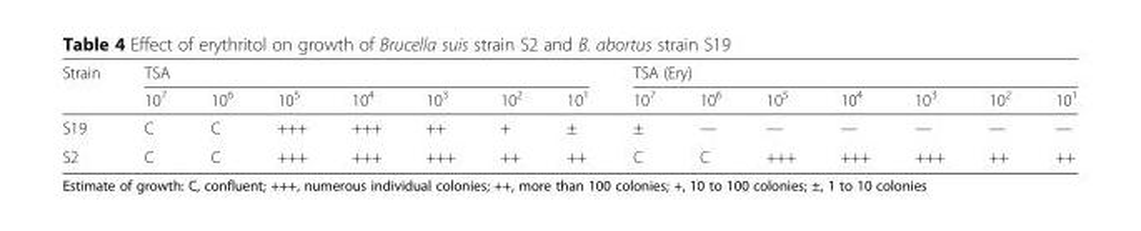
<table><thead><tr><td rowspan="2">Strain</td><td colspan="7">TSA</td><td colspan="7">TSA (Ery)</td></tr><tr><td>10<sup>7</sup></td><td>10<sup>6</sup></td><td>10<sup>5</sup></td><td>10<sup>4</sup></td><td>10<sup>3</sup></td><td>10<sup>2</sup></td><td>10<sup>1</sup></td><td>10<sup>7</sup></td><td>10<sup>6</sup></td><td>10<sup>5</sup></td><td>10<sup>4</sup></td><td>10<sup>3</sup></td><td>10<sup>2</sup></td><td>10<sup>1</sup></td></tr></thead><tbody><tr><td>S19</td><td>C</td><td>C</td><td>+++</td><td>+++</td><td>++</td><td>+</td><td>±</td><td>±</td><td>—</td><td>—</td><td>—</td><td>—</td><td>—</td><td>—</td></tr><tr><td>S2</td><td>C</td><td>C</td><td>+++</td><td>+++</td><td>+++</td><td>++</td><td>++</td><td>C</td><td>C</td><td>+++</td><td>+++</td><td>+++</td><td>++</td><td>++</td></tr></tbody></table>